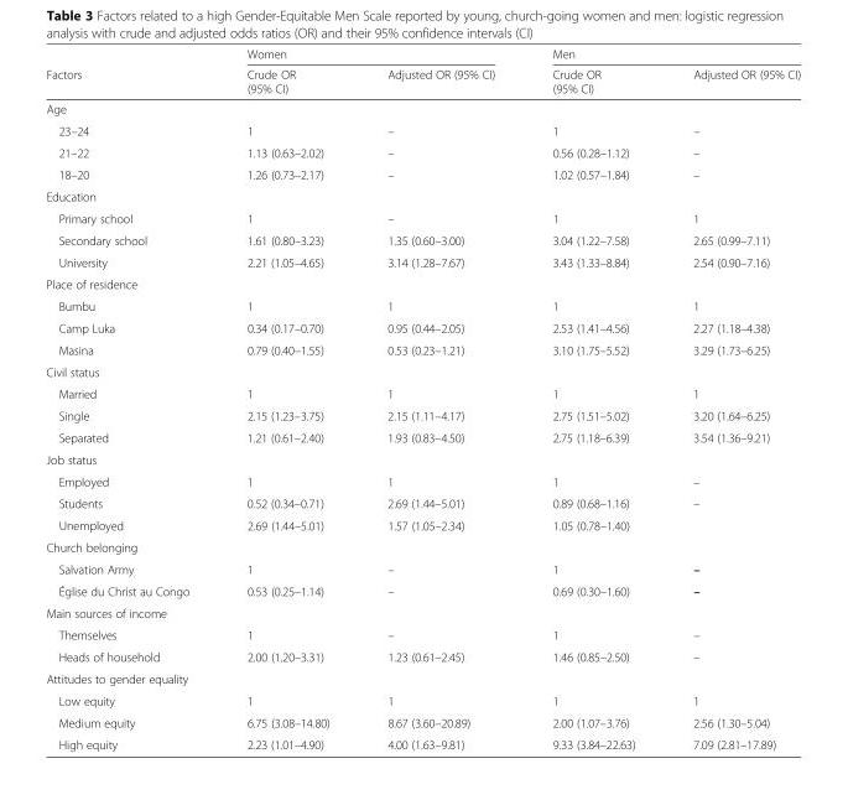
<table><thead><tr><td rowspan="2">Factors</td><td colspan="2">Women</td><td colspan="2">Men</td></tr><tr><td>Crude OR (95% CI)</td><td>Adjusted OR (95% CI)</td><td>Crude OR (95% CI)</td><td>Adjusted OR (95% CI)</td></tr></thead><tbody><tr><td colspan="5">Age</td></tr><tr><td>23–24</td><td>1</td><td>–</td><td>1</td><td>–</td></tr><tr><td>21–22</td><td>1.13 (0.63–2.02)</td><td>–</td><td>0.56 (0.28–1.12)</td><td>–</td></tr><tr><td>18–20</td><td>1.26 (0.73–2.17)</td><td>–</td><td>1.02 (0.57–1.84)</td><td>–</td></tr><tr><td colspan="5">Education</td></tr><tr><td>Primary school</td><td>1</td><td>–</td><td>1</td><td>1</td></tr><tr><td>Secondary school</td><td>1.61 (0.80–3.23)</td><td>1.35 (0.60–3.00)</td><td>3.04 (1.22–7.58)</td><td>2.65 (0.99–7.11)</td></tr><tr><td>University</td><td>2.21 (1.05–4.65)</td><td>3.14 (1.28–7.67)</td><td>3.43 (1.33–8.84)</td><td>2.54 (0.90–7.16)</td></tr><tr><td colspan="5">Place of residence</td></tr><tr><td>Bumbu</td><td>1</td><td>1</td><td>1</td><td>1</td></tr><tr><td>Camp Luka</td><td>0.34 (0.17–0.70)</td><td>0.95 (0.44–2.05)</td><td>2.53 (1.41–4.56)</td><td>2.27 (1.18–4.38)</td></tr><tr><td>Masina</td><td>0.79 (0.40–1.55)</td><td>0.53 (0.23–1.21)</td><td>3.10 (1.75–5.52)</td><td>3.29 (1.73–6.25)</td></tr><tr><td colspan="5">Civil status</td></tr><tr><td>Married</td><td>1</td><td>1</td><td>1</td><td>1</td></tr><tr><td>Single</td><td>2.15 (1.23–3.75)</td><td>2.15 (1.11–4.17)</td><td>2.75 (1.51–5.02)</td><td>3.20 (1.64–6.25)</td></tr><tr><td>Separated</td><td>1.21 (0.61–2.40)</td><td>1.93 (0.83–4.50)</td><td>2.75 (1.18–6.39)</td><td>3.54 (1.36–9.21)</td></tr><tr><td colspan="5">Job status</td></tr><tr><td>Employed</td><td>1</td><td>1</td><td>1</td><td>–</td></tr><tr><td>Students</td><td>0.52 (0.34–0.71)</td><td>2.69 (1.44–5.01)</td><td>0.89 (0.68–1.16)</td><td>–</td></tr><tr><td>Unemployed</td><td>2.69 (1.44–5.01)</td><td>1.57 (1.05–2.34)</td><td>1.05 (0.78–1.40)</td><td></td></tr><tr><td colspan="5">Church belonging</td></tr><tr><td>Salvation Army</td><td>1</td><td>–</td><td>1</td><td>–</td></tr><tr><td>Église du Christ au Congo</td><td>0.53 (0.25–1.14)</td><td>–</td><td>0.69 (0.30–1.60)</td><td>–</td></tr><tr><td colspan="5">Main sources of income</td></tr><tr><td>Themselves</td><td>1</td><td>–</td><td>1</td><td>–</td></tr><tr><td>Heads of household</td><td>2.00 (1.20–3.31)</td><td>1.23 (0.61–2.45)</td><td>1.46 (0.85–2.50)</td><td>–</td></tr><tr><td colspan="5">Attitudes to gender equality</td></tr><tr><td>Low equity</td><td>1</td><td>1</td><td>1</td><td>1</td></tr><tr><td>Medium equity</td><td>6.75 (3.08–14.80)</td><td>8.67 (3.60–20.89)</td><td>2.00 (1.07–3.76)</td><td>2.56 (1.30–5.04)</td></tr><tr><td>High equity</td><td>2.23 (1.01–4.90)</td><td>4.00 (1.63–9.81)</td><td>9.33 (3.84–22.63)</td><td>7.09 (2.81–17.89)</td></tr></tbody></table>